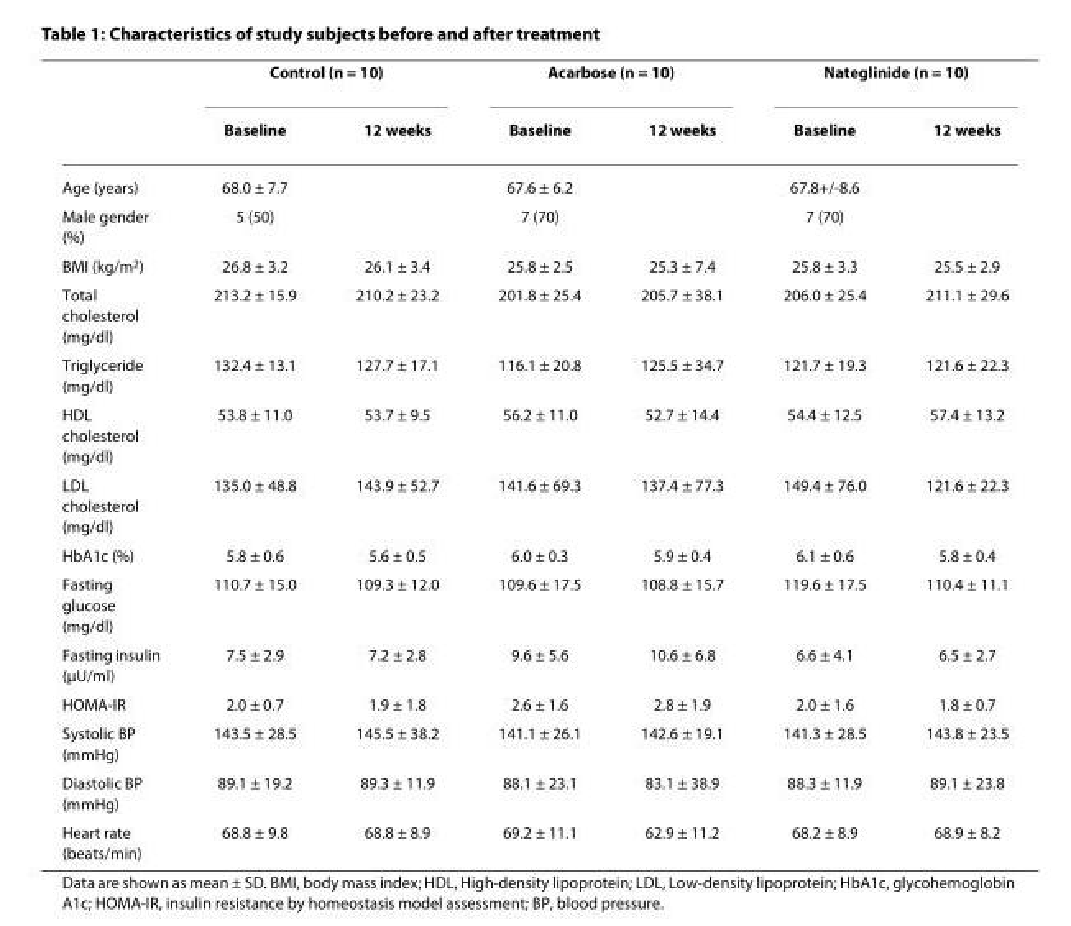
<table><thead><tr><td rowspan="2"></td><td colspan="2">Control (n = 10)</td><td colspan="2">Acarbose (n = 10)</td><td colspan="2">Nateglinide (n = 10)</td></tr><tr><td>Baseline</td><td>12 weeks</td><td>Baseline</td><td>12 weeks</td><td>Baseline</td><td>12 weeks</td></tr></thead><tbody><tr><td>Age (years)</td><td>68.0 ± 7.7</td><td></td><td>67.6 ± 6.2</td><td></td><td>67.8+/-8.6</td><td></td></tr><tr><td>Male gender (%)</td><td>5 (50)</td><td></td><td>7 (70)</td><td></td><td>7 (70)</td><td></td></tr><tr><td>BMI (kg/m<sup>2</sup>)</td><td>26.8 ± 3.2</td><td>26.1 ± 3.4</td><td>25.8 ± 2.5</td><td>25.3 ± 7.4</td><td>25.8 ± 3.3</td><td>25.5 ± 2.9</td></tr><tr><td>Total cholesterol (mg/dl)</td><td>213.2 ± 15.9</td><td>210.2 ± 23.2</td><td>201.8 ± 25.4</td><td>205.7 ± 38.1</td><td>206.0 ± 25.4</td><td>211.1 ± 29.6</td></tr><tr><td>Triglyceride (mg/dl)</td><td>132.4 ± 13.1</td><td>127.7 ± 17.1</td><td>116.1 ± 20.8</td><td>125.5 ± 34.7</td><td>121.7 ± 19.3</td><td>121.6 ± 22.3</td></tr><tr><td>HDL cholesterol (mg/dl)</td><td>53.8 ± 11.0</td><td>53.7 ± 9.5</td><td>56.2 ± 11.0</td><td>52.7 ± 14.4</td><td>54.4 ± 12.5</td><td>57.4 ± 13.2</td></tr><tr><td>LDL cholesterol (mg/dl)</td><td>135.0 ± 48.8</td><td>143.9 ± 52.7</td><td>141.6 ± 69.3</td><td>137.4 ± 77.3</td><td>149.4 ± 76.0</td><td>121.6 ± 22.3</td></tr><tr><td>HbA1c (%)</td><td>5.8 ± 0.6</td><td>5.6 ± 0.5</td><td>6.0 ± 0.3</td><td>5.9 ± 0.4</td><td>6.1 ± 0.6</td><td>5.8 ± 0.4</td></tr><tr><td>Fasting glucose (mg/dl)</td><td>110.7 ± 15.0</td><td>109.3 ± 12.0</td><td>109.6 ± 17.5</td><td>108.8 ± 15.7</td><td>119.6 ± 17.5</td><td>110.4 ± 11.1</td></tr><tr><td>Fasting insulin (μU/ml)</td><td>7.5 ± 2.9</td><td>7.2 ± 2.8</td><td>9.6 ± 5.6</td><td>10.6 ± 6.8</td><td>6.6 ± 4.1</td><td>6.5 ± 2.7</td></tr><tr><td>HOMA-IR</td><td>2.0 ± 0.7</td><td>1.9 ± 1.8</td><td>2.6 ± 1.6</td><td>2.8 ± 1.9</td><td>2.0 ± 1.6</td><td>1.8 ± 0.7</td></tr><tr><td>Systolic BP (mmHg)</td><td>143.5 ± 28.5</td><td>145.5 ± 38.2</td><td>141.1 ± 26.1</td><td>142.6 ± 19.1</td><td>141.3 ± 28.5</td><td>143.8 ± 23.5</td></tr><tr><td>Diastolic BP (mmHg)</td><td>89.1 ± 19.2</td><td>89.3 ± 11.9</td><td>88.1 ± 23.1</td><td>83.1 ± 38.9</td><td>88.3 ± 11.9</td><td>89.1 ± 23.8</td></tr><tr><td>Heart rate (beats/min)</td><td>68.8 ± 9.8</td><td>68.8 ± 8.9</td><td>69.2 ± 11.1</td><td>62.9 ± 11.2</td><td>68.2 ± 8.9</td><td>68.9 ± 8.2</td></tr></tbody></table>